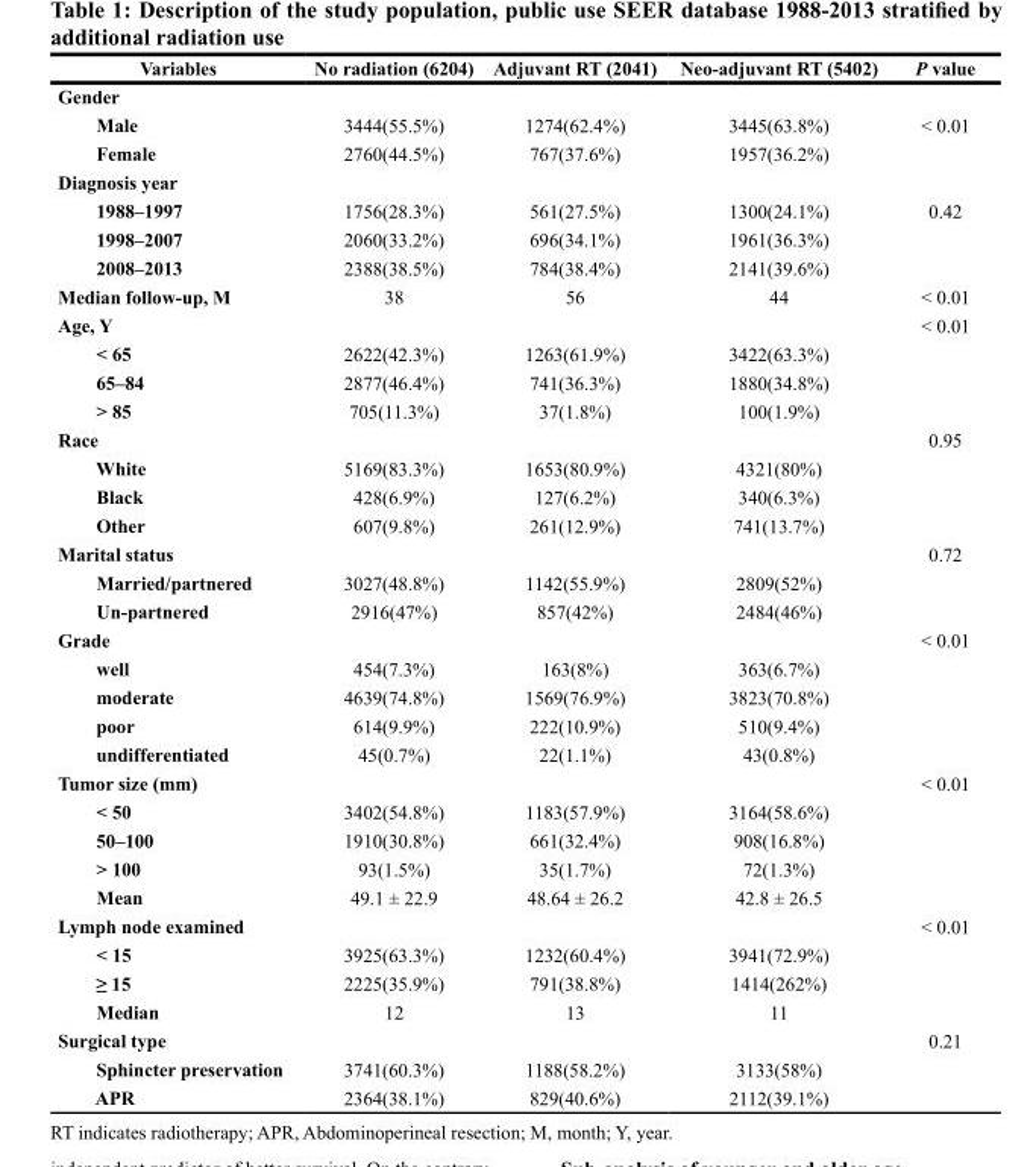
<table><thead><tr><td>Variables</td><td>No radiation (6204)</td><td>Adjuvant RT (2041)</td><td>Neo-adjuvant RT (5402)</td><td>P value</td></tr></thead><tbody><tr><td colspan="5">Gender</td></tr><tr><td>Male</td><td>3444(55.5%)</td><td>1274(62.4%)</td><td>3445(63.8%)</td><td>&lt; 0.01</td></tr><tr><td>Female</td><td>2760(44.5%)</td><td>767(37.6%)</td><td>1957(36.2%)</td><td></td></tr><tr><td colspan="5">Diagnosis year</td></tr><tr><td>1988–1997</td><td>1756(28.3%)</td><td>561(27.5%)</td><td>1300(24.1%)</td><td>0.42</td></tr><tr><td>1998–2007</td><td>2060(33.2%)</td><td>696(34.1%)</td><td>1961(36.3%)</td><td></td></tr><tr><td>2008–2013</td><td>2388(38.5%)</td><td>784(38.4%)</td><td>2141(39.6%)</td><td></td></tr><tr><td>Median follow-up, M</td><td>38</td><td>56</td><td>44</td><td>&lt; 0.01</td></tr><tr><td>Age, Y</td><td></td><td></td><td></td><td>&lt; 0.01</td></tr><tr><td>&lt; 65</td><td>2622(42.3%)</td><td>1263(61.9%)</td><td>3422(63.3%)</td><td></td></tr><tr><td>65–84</td><td>2877(46.4%)</td><td>741(36.3%)</td><td>1880(34.8%)</td><td></td></tr><tr><td>&gt; 85</td><td>705(11.3%)</td><td>37(1.8%)</td><td>100(1.9%)</td><td></td></tr><tr><td>Race</td><td></td><td></td><td></td><td>0.95</td></tr><tr><td>White</td><td>5169(83.3%)</td><td>1653(80.9%)</td><td>4321(80%)</td><td></td></tr><tr><td>Black</td><td>428(6.9%)</td><td>127(6.2%)</td><td>340(6.3%)</td><td></td></tr><tr><td>Other</td><td>607(9.8%)</td><td>261(12.9%)</td><td>741(13.7%)</td><td></td></tr><tr><td>Marital status</td><td></td><td></td><td></td><td>0.72</td></tr><tr><td>Married/partnered</td><td>3027(48.8%)</td><td>1142(55.9%)</td><td>2809(52%)</td><td></td></tr><tr><td>Un-partnered</td><td>2916(47%)</td><td>857(42%)</td><td>2484(46%)</td><td></td></tr><tr><td>Grade</td><td></td><td></td><td></td><td>&lt; 0.01</td></tr><tr><td>well</td><td>454(7.3%)</td><td>163(8%)</td><td>363(6.7%)</td><td></td></tr><tr><td>moderate</td><td>4639(74.8%)</td><td>1569(76.9%)</td><td>3823(70.8%)</td><td></td></tr><tr><td>poor</td><td>614(9.9%)</td><td>222(10.9%)</td><td>510(9.4%)</td><td></td></tr><tr><td>undifferentiated</td><td>45(0.7%)</td><td>22(1.1%)</td><td>43(0.8%)</td><td></td></tr><tr><td>Tumor size (mm)</td><td></td><td></td><td></td><td>&lt; 0.01</td></tr><tr><td>&lt; 50</td><td>3402(54.8%)</td><td>1183(57.9%)</td><td>3164(58.6%)</td><td></td></tr><tr><td>50–100</td><td>1910(30.8%)</td><td>661(32.4%)</td><td>908(16.8%)</td><td></td></tr><tr><td>&gt; 100</td><td>93(1.5%)</td><td>35(1.7%)</td><td>72(1.3%)</td><td></td></tr><tr><td>Mean</td><td>49.1 ± 22.9</td><td>48.64 ± 26.2</td><td>42.8 ± 26.5</td><td></td></tr><tr><td>Lymph node examined</td><td></td><td></td><td></td><td>&lt; 0.01</td></tr><tr><td>&lt; 15</td><td>3925(63.3%)</td><td>1232(60.4%)</td><td>3941(72.9%)</td><td></td></tr><tr><td>≥ 15</td><td>2225(35.9%)</td><td>791(38.8%)</td><td>1414(262%)</td><td></td></tr><tr><td>Median</td><td>12</td><td>13</td><td>11</td><td></td></tr><tr><td>Surgical type</td><td></td><td></td><td></td><td>0.21</td></tr><tr><td>Sphincter preservation</td><td>3741(60.3%)</td><td>1188(58.2%)</td><td>3133(58%)</td><td></td></tr><tr><td>APR</td><td>2364(38.1%)</td><td>829(40.6%)</td><td>2112(39.1%)</td><td></td></tr></tbody></table>